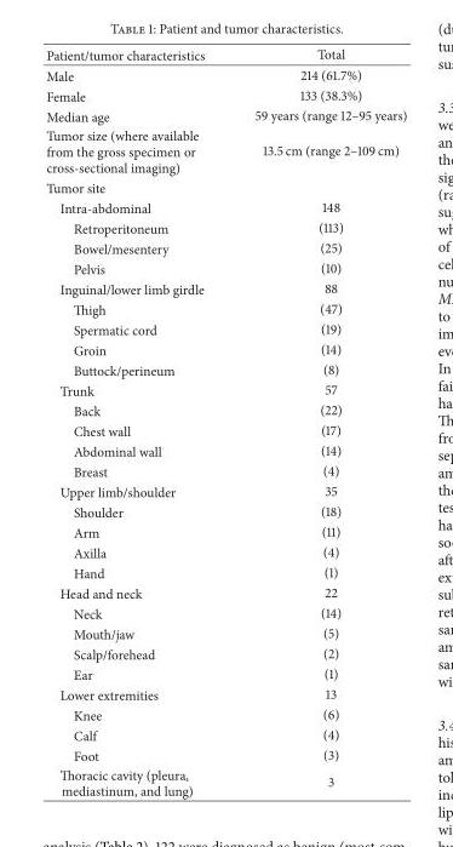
<table><thead><tr><td>Patient/tumor characteristics</td><td>Total</td></tr></thead><tbody><tr><td>Male</td><td>214 (61.7%)</td></tr><tr><td>Female</td><td>133 (38.3%)</td></tr><tr><td>Median age</td><td>59 years (range 12–95 years)</td></tr><tr><td>Tumor size (where available from the gross specimen or cross-sectional imaging)</td><td>13.5 cm (range 2–109 cm)</td></tr><tr><td colspan="2">Tumor site</td></tr><tr><td>Intra-abdominal</td><td>148</td></tr><tr><td>Retroperitoneum</td><td>(113)</td></tr><tr><td>Bowel/mesentery</td><td>(25)</td></tr><tr><td>Pelvis</td><td>(10)</td></tr><tr><td>Inguinal/lower limb girdle</td><td>88</td></tr><tr><td>Thigh</td><td>(47)</td></tr><tr><td>Spermatic cord</td><td>(19)</td></tr><tr><td>Groin</td><td>(14)</td></tr><tr><td>Buttock/perineum</td><td>(8)</td></tr><tr><td>Trunk</td><td>57</td></tr><tr><td>Back</td><td>(22)</td></tr><tr><td>Chest wall</td><td>(17)</td></tr><tr><td>Abdominal wall</td><td>(14)</td></tr><tr><td>Breast</td><td>(4)</td></tr><tr><td>Upper limb/shoulder</td><td>35</td></tr><tr><td>Shoulder</td><td>(18)</td></tr><tr><td>Arm</td><td>(11)</td></tr><tr><td>Axilla</td><td>(4)</td></tr><tr><td>Hand</td><td>(1)</td></tr><tr><td>Head and neck</td><td>22</td></tr><tr><td>Neck</td><td>(14)</td></tr><tr><td>Mouth/jaw</td><td>(5)</td></tr><tr><td>Scalp/forehead</td><td>(2)</td></tr><tr><td>Ear</td><td>(1)</td></tr><tr><td>Lower extremities</td><td>13</td></tr><tr><td>Knee</td><td>(6)</td></tr><tr><td>Calf</td><td>(4)</td></tr><tr><td>Foot</td><td>(3)</td></tr><tr><td>Thoracic cavity (pleura, mediastinum, and lung)</td><td>3</td></tr></tbody></table>